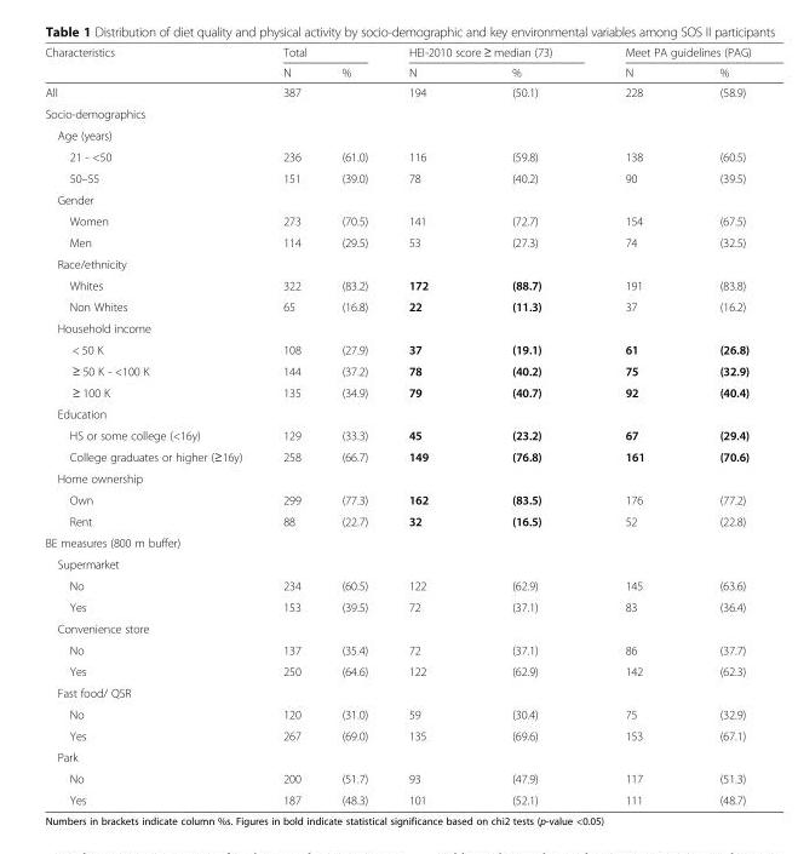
<table><thead><tr><td rowspan="2">Characteristics</td><td colspan="2">Total</td><td colspan="2">HEI-2010 score ≥ median (73)</td><td colspan="2">Meet PA guidelines (PAG)</td></tr><tr><td>N</td><td>%</td><td>N</td><td>%</td><td>N</td><td>%</td></tr></thead><tbody><tr><td>All</td><td>387</td><td></td><td>194</td><td>(50.1)</td><td>228</td><td>(58.9)</td></tr><tr><td colspan="7">Socio-demographics</td></tr><tr><td colspan="7">Age (years)</td></tr><tr><td>21 - &lt;50</td><td>236</td><td>(61.0)</td><td>116</td><td>(59.8)</td><td>138</td><td>(60.5)</td></tr><tr><td>50–55</td><td>151</td><td>(39.0)</td><td>78</td><td>(40.2)</td><td>90</td><td>(39.5)</td></tr><tr><td colspan="7">Gender</td></tr><tr><td>Women</td><td>273</td><td>(70.5)</td><td>141</td><td>(72.7)</td><td>154</td><td>(67.5)</td></tr><tr><td>Men</td><td>114</td><td>(29.5)</td><td>53</td><td>(27.3)</td><td>74</td><td>(32.5)</td></tr><tr><td colspan="7">Race/ethnicity</td></tr><tr><td>Whites</td><td>322</td><td>(83.2)</td><td>172</td><td>(88.7)</td><td>191</td><td>(83.8)</td></tr><tr><td>Non Whites</td><td>65</td><td>(16.8)</td><td>22</td><td>(11.3)</td><td>37</td><td>(16.2)</td></tr><tr><td colspan="7">Household income</td></tr><tr><td>&lt; 50 K</td><td>108</td><td>(27.9)</td><td>37</td><td>(19.1)</td><td>61</td><td>(26.8)</td></tr><tr><td>≥ 50 K - &lt;100 K</td><td>144</td><td>(37.2)</td><td>78</td><td>(40.2)</td><td>75</td><td>(32.9)</td></tr><tr><td>≥ 100 K</td><td>135</td><td>(34.9)</td><td>79</td><td>(40.7)</td><td>92</td><td>(40.4)</td></tr><tr><td colspan="7">Education</td></tr><tr><td>HS or some college (&lt;16y)</td><td>129</td><td>(33.3)</td><td>45</td><td>(23.2)</td><td>67</td><td>(29.4)</td></tr><tr><td>College graduates or higher (≥16y)</td><td>258</td><td>(66.7)</td><td>149</td><td>(76.8)</td><td>161</td><td>(70.6)</td></tr><tr><td colspan="7">Home ownership</td></tr><tr><td>Own</td><td>299</td><td>(77.3)</td><td>162</td><td>(83.5)</td><td>176</td><td>(77.2)</td></tr><tr><td>Rent</td><td>88</td><td>(22.7)</td><td>32</td><td>(16.5)</td><td>52</td><td>(22.8)</td></tr><tr><td colspan="7">BE measures (800 m buffer)</td></tr><tr><td colspan="7">Supermarket</td></tr><tr><td>No</td><td>234</td><td>(60.5)</td><td>122</td><td>(62.9)</td><td>145</td><td>(63.6)</td></tr><tr><td>Yes</td><td>153</td><td>(39.5)</td><td>72</td><td>(37.1)</td><td>83</td><td>(36.4)</td></tr><tr><td colspan="7">Convenience store</td></tr><tr><td>No</td><td>137</td><td>(35.4)</td><td>72</td><td>(37.1)</td><td>86</td><td>(37.7)</td></tr><tr><td>Yes</td><td>250</td><td>(64.6)</td><td>122</td><td>(62.9)</td><td>142</td><td>(62.3)</td></tr><tr><td colspan="7">Fast food/ QSR</td></tr><tr><td>No</td><td>120</td><td>(31.0)</td><td>59</td><td>(30.4)</td><td>75</td><td>(32.9)</td></tr><tr><td>Yes</td><td>267</td><td>(69.0)</td><td>135</td><td>(69.6)</td><td>153</td><td>(67.1)</td></tr><tr><td colspan="7">Park</td></tr><tr><td>No</td><td>200</td><td>(51.7)</td><td>93</td><td>(47.9)</td><td>117</td><td>(51.3)</td></tr><tr><td>Yes</td><td>187</td><td>(48.3)</td><td>101</td><td>(52.1)</td><td>111</td><td>(48.7)</td></tr></tbody></table>